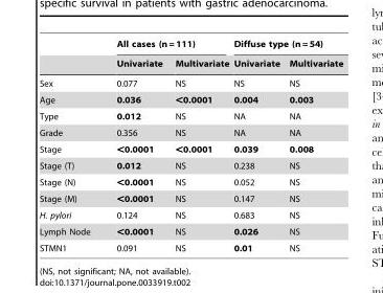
<table><thead><tr><td rowspan="2"></td><td colspan="2">All cases (n = 111)</td><td colspan="2">Diffuse type (n = 54)</td></tr><tr><td>Univariate</td><td>Multivariate</td><td>Univariate</td><td>Multivariate</td></tr></thead><tbody><tr><td>Sex</td><td>0.077</td><td>NS</td><td>NS</td><td>NS</td></tr><tr><td>Age</td><td>0.036</td><td>&lt;0.0001</td><td>0.004</td><td>0.003</td></tr><tr><td>Type</td><td>0.012</td><td>NS</td><td>NA</td><td>NA</td></tr><tr><td>Grade</td><td>0.356</td><td>NS</td><td>NA</td><td>NA</td></tr><tr><td>Stage</td><td>&lt;0.0001</td><td>&lt;0.0001</td><td>0.039</td><td>0.008</td></tr><tr><td>Stage (T)</td><td>0.012</td><td>NS</td><td>0.238</td><td>NS</td></tr><tr><td>Stage (N)</td><td>&lt;0.0001</td><td>NS</td><td>0.052</td><td>NS</td></tr><tr><td>Stage (M)</td><td>&lt;0.0001</td><td>NS</td><td>0.147</td><td>NS</td></tr><tr><td>H. pylori</td><td>0.124</td><td>NS</td><td>0.683</td><td>NS</td></tr><tr><td>Lymph Node</td><td>&lt;0.0001</td><td>NS</td><td>0.026</td><td>NS</td></tr><tr><td>STMN1</td><td>0.091</td><td>NS</td><td>0.01</td><td>NS</td></tr></tbody></table>